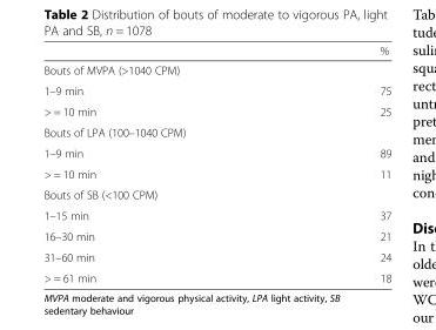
<table><thead><tr><td></td><td>%</td></tr></thead><tbody><tr><td colspan="2">Bouts of MVPA (&gt;1040 CPM)</td></tr><tr><td>1–9 min</td><td>75</td></tr><tr><td>&gt; = 10 min</td><td>25</td></tr><tr><td colspan="2">Bouts of LPA (100–1040 CPM)</td></tr><tr><td>1–9 min</td><td>89</td></tr><tr><td>&gt; = 10 min</td><td>11</td></tr><tr><td colspan="2">Bouts of SB (&lt;100 CPM)</td></tr><tr><td>1–15 min</td><td>37</td></tr><tr><td>16–30 min</td><td>21</td></tr><tr><td>31–60 min</td><td>24</td></tr><tr><td>&gt; = 61 min</td><td>18</td></tr></tbody></table>